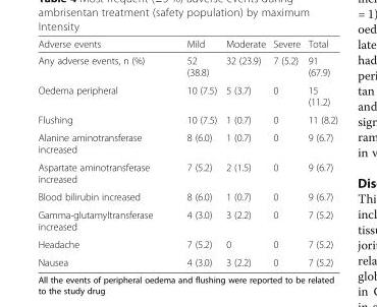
<table><thead><tr><td>Adverse events</td><td>Mild</td><td>Moderate</td><td>Severe</td><td>Total</td></tr></thead><tbody><tr><td>Any adverse events, n (%)</td><td>52 (38.8)</td><td>32 (23.9)</td><td>7 (5.2)</td><td>91 (67.9)</td></tr><tr><td>Oedema peripheral</td><td>10 (7.5)</td><td>5 (3.7)</td><td>0</td><td>15 (11.2)</td></tr><tr><td>Flushing</td><td>10 (7.5)</td><td>1 (0.7)</td><td>0</td><td>11 (8.2)</td></tr><tr><td>Alanine aminotransferase increased</td><td>8 (6.0)</td><td>1 (0.7)</td><td>0</td><td>9 (6.7)</td></tr><tr><td>Aspartate aminotransferase increased</td><td>7 (5.2)</td><td>2 (1.5)</td><td>0</td><td>9 (6.7)</td></tr><tr><td>Blood bilirubin increased</td><td>8 (6.0)</td><td>1 (0.7)</td><td>0</td><td>9 (6.7)</td></tr><tr><td>Gamma-glutamyltransferase increased</td><td>4 (3.0)</td><td>3 (2.2)</td><td>0</td><td>7 (5.2)</td></tr><tr><td>Headache</td><td>7 (5.2)</td><td>0</td><td>0</td><td>7 (5.2)</td></tr><tr><td>Nausea</td><td>4 (3.0)</td><td>3 (2.2)</td><td>0</td><td>7 (5.2)</td></tr></tbody></table>